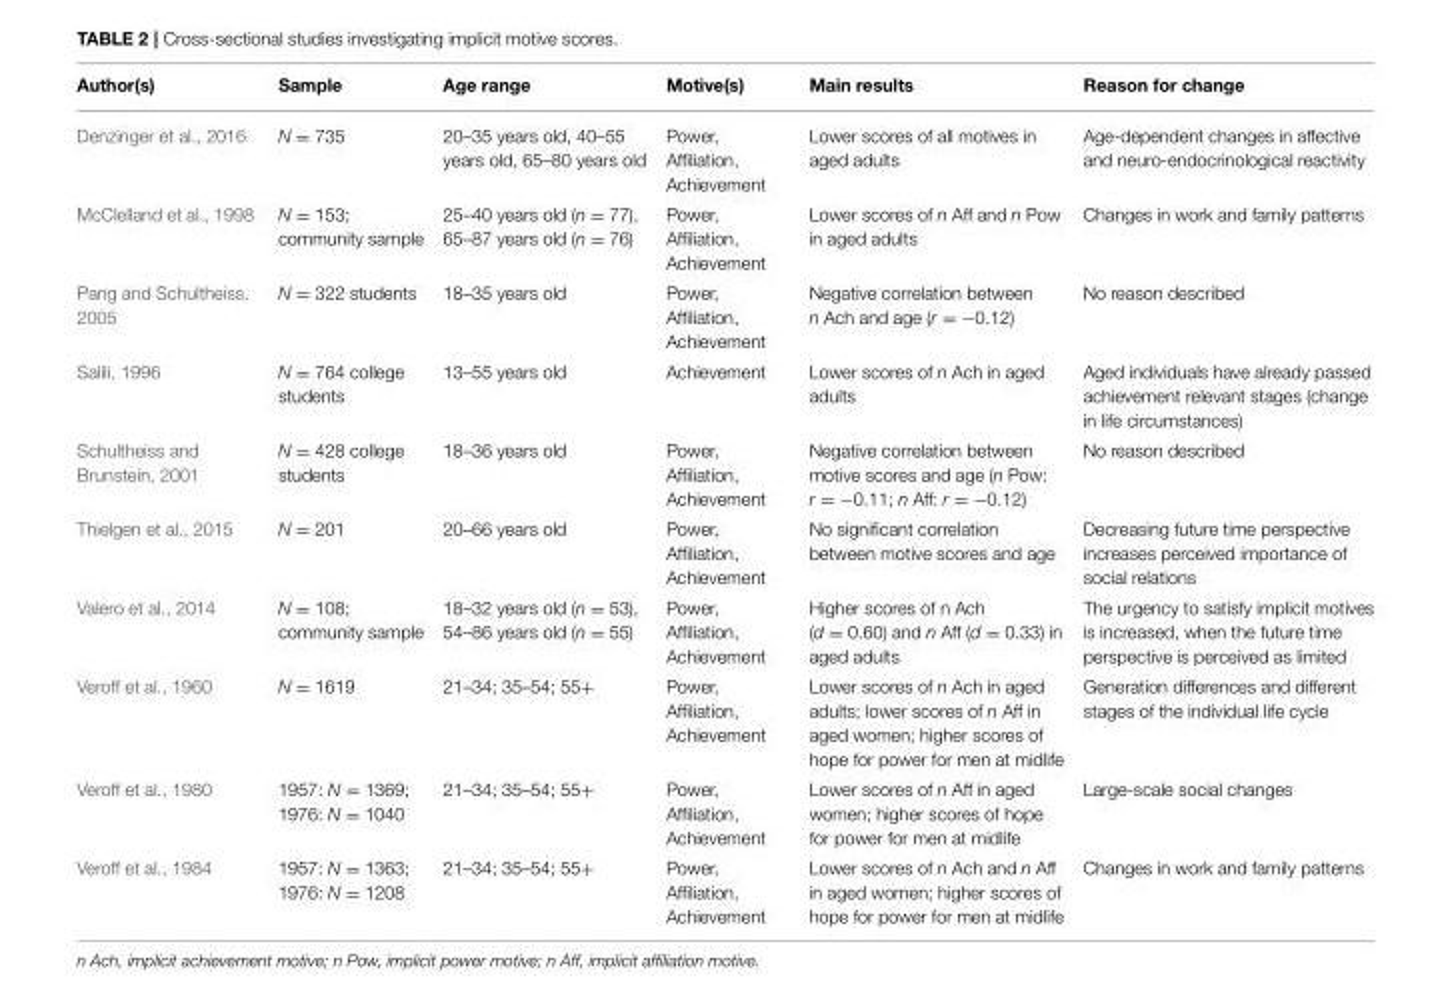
<table><thead><tr><td>Author(s)</td><td>Sample</td><td>Age range</td><td>Motive(s)</td><td>Main results</td><td>Reason for change</td></tr></thead><tbody><tr><td>Denzinger et al., 2016</td><td>N = 735</td><td>20–35 years old, 40–55 years old, 65–80 years old</td><td>Power, Affiliation, Achievement</td><td>Lower scores of all motives in aged adults</td><td>Age-dependent changes in affective and neuro-endocrinological reactivity</td></tr><tr><td>McClelland et al., 1998</td><td>N = 153; community sample</td><td>25–40 years old (n = 77), 65–87 years old (n = 76)</td><td>Power, Affiliation, Achievement</td><td>Lower scores of n Aff and n Pow in aged adults</td><td>Changes in work and family patterns</td></tr><tr><td>Pang and Schultheiss, 2005</td><td>N = 322 students</td><td>18–35 years old</td><td>Power, Affiliation, Achievement</td><td>Negative correlation between n Ach and age (r = −0.12)</td><td>No reason described</td></tr><tr><td>Salili, 1996</td><td>N = 764 college students</td><td>13–55 years old</td><td>Achievement</td><td>Lower scores of n Ach in aged adults</td><td>Aged individuals have already passed achievement relevant stages (change in life circumstances)</td></tr><tr><td>Schultheiss and Brunstein, 2001</td><td>N = 428 college students</td><td>18–36 years old</td><td>Power, Affiliation, Achievement</td><td>Negative correlation between motive scores and age (n Pow: r = −0.11; n Aff: r = −0.12)</td><td>No reason described</td></tr><tr><td>Thielgen et al., 2015</td><td>N = 201</td><td>20–66 years old</td><td>Power, Affiliation, Achievement</td><td>No significant correlation between motive scores and age</td><td>Decreasing future time perspective increases perceived importance of social relations</td></tr><tr><td>Valero et al., 2014</td><td>N = 108; community sample</td><td>18–32 years old (n = 53), 54–86 years old (n = 55)</td><td>Power, Affiliation, Achievement</td><td>Higher scores of n Ach (d = 0.60) and n Aff (d = 0.33) in aged adults</td><td>The urgency to satisfy implicit motives is increased, when the future time perspective is perceived as limited</td></tr><tr><td>Veroff et al., 1960</td><td>N = 1619</td><td>21–34; 35–54; 55+</td><td>Power, Affiliation, Achievement</td><td>Lower scores of n Ach in aged adults; lower scores of n Aff in aged women; higher scores of hope for power for men at midlife</td><td>Generation differences and different stages of the individual life cycle</td></tr><tr><td>Veroff et al., 1980</td><td>1957: N = 1369; 1976: N = 1040</td><td>21–34; 35–54; 55+</td><td>Power, Affiliation, Achievement</td><td>Lower scores of n Aff in aged women; higher scores of hope for power for men at midlife</td><td>Large-scale social changes</td></tr><tr><td>Veroff et al., 1984</td><td>1957: N = 1363; 1976: N = 1208</td><td>21–34; 35–54; 55+</td><td>Power, Affiliation, Achievement</td><td>Lower scores of n Ach and n Aff in aged women; higher scores of hope for power for men at midlife</td><td>Changes in work and family patterns</td></tr></tbody></table>